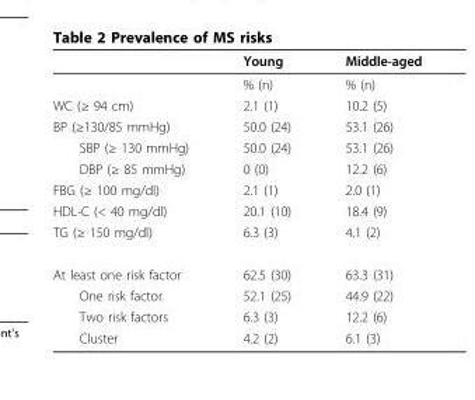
<table><thead><tr><td></td><td>Young</td><td>Middle-aged</td></tr></thead><tbody><tr><td></td><td>% (n)</td><td>% (n)</td></tr><tr><td>WC (≥ 94 cm)</td><td>2.1 (1)</td><td>10.2 (5)</td></tr><tr><td>BP (≥130/85 mmHg)</td><td>50.0 (24)</td><td>53.1 (26)</td></tr><tr><td>SBP (≥ 130 mmHg)</td><td>50.0 (24)</td><td>53.1 (26)</td></tr><tr><td>DBP (≥ 85 mmHg)</td><td>0 (0)</td><td>12.2 (6)</td></tr><tr><td>FBG (≥ 100 mg/dl)</td><td>2.1 (1)</td><td>2.0 (1)</td></tr><tr><td>HDL-C (&lt; 40 mg/dl)</td><td>20.1 (10)</td><td>18.4 (9)</td></tr><tr><td>TG (≥ 150 mg/dl)</td><td>6.3 (3)</td><td>4.1 (2)</td></tr><tr><td>At least one risk factor</td><td>62.5 (30)</td><td>63.3 (31)</td></tr><tr><td>One risk factor</td><td>52.1 (25)</td><td>44.9 (22)</td></tr><tr><td>Two risk factors</td><td>6.3 (3)</td><td>12.2 (6)</td></tr><tr><td>Cluster</td><td>4.2 (2)</td><td>6.1 (3)</td></tr></tbody></table>